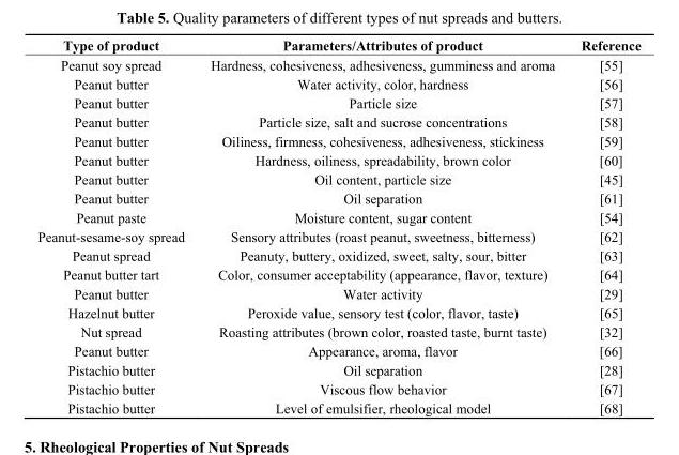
<table><thead><tr><td>Type of product</td><td>Parameters/Attributes of product</td><td>Reference</td></tr></thead><tbody><tr><td>Peanut soy spread</td><td>Hardness, cohesiveness, adhesiveness, gumminess and aroma</td><td>[55]</td></tr><tr><td>Peanut butter</td><td>Water activity, color, hardness</td><td>[56]</td></tr><tr><td>Peanut butter</td><td>Particle size</td><td>[57]</td></tr><tr><td>Peanut butter</td><td>Particle size, salt and sucrose concentrations</td><td>[58]</td></tr><tr><td>Peanut butter</td><td>Oiliness, firmness, cohesiveness, adhesiveness, stickiness</td><td>[59]</td></tr><tr><td>Peanut butter</td><td>Hardness, oiliness, spreadability, brown color</td><td>[60]</td></tr><tr><td>Peanut butter</td><td>Oil content, particle size</td><td>[45]</td></tr><tr><td>Peanut butter</td><td>Oil separation</td><td>[61]</td></tr><tr><td>Peanut paste</td><td>Moisture content, sugar content</td><td>[54]</td></tr><tr><td>Peanut-sesame-soy spread</td><td>Sensory attributes (roast peanut, sweetness, bitterness)</td><td>[62]</td></tr><tr><td>Peanut spread</td><td>Peanuty, buttery, oxidized, sweet, salty, sour, bitter</td><td>[63]</td></tr><tr><td>Peanut butter tart</td><td>Color, consumer acceptability (appearance, flavor, texture)</td><td>[64]</td></tr><tr><td>Peanut butter</td><td>Water activity</td><td>[29]</td></tr><tr><td>Hazelnut butter</td><td>Peroxide value, sensory test (color, flavor, taste)</td><td>[65]</td></tr><tr><td>Nut spread</td><td>Roasting attributes (brown color, roasted taste, burnt taste)</td><td>[32]</td></tr><tr><td>Peanut butter</td><td>Appearance, aroma, flavor</td><td>[66]</td></tr><tr><td>Pistachio butter</td><td>Oil separation</td><td>[28]</td></tr><tr><td>Pistachio butter</td><td>Viscous flow behavior</td><td>[67]</td></tr><tr><td>Pistachio butter</td><td>Level of emulsifier, rheological model</td><td>[68]</td></tr></tbody></table>